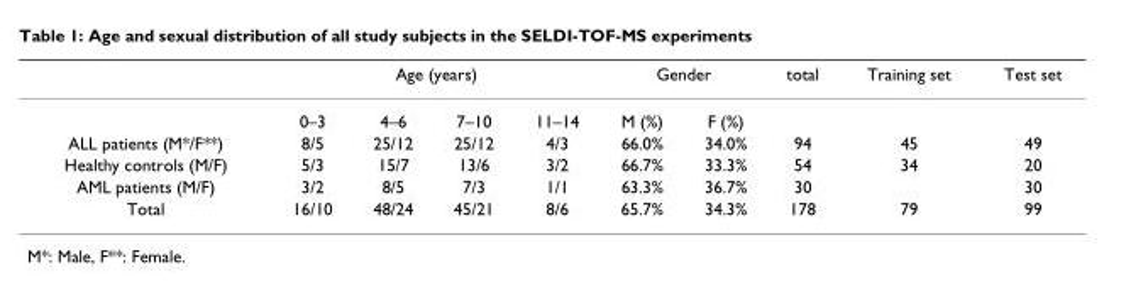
<table><thead><tr><td rowspan="2"></td><td colspan="4">Age (years)</td><td colspan="2">Gender</td><td rowspan="2">total</td><td rowspan="2">Training set</td><td rowspan="2">Test set</td></tr><tr><td>0–3</td><td>4–6</td><td>7–10</td><td>11–14</td><td>M (%)</td><td>F (%)</td></tr></thead><tbody><tr><td>ALL patients (M*/F**)</td><td>8/5</td><td>25/12</td><td>25/12</td><td>4/3</td><td>66.0%</td><td>34.0%</td><td>94</td><td>45</td><td>49</td></tr><tr><td>Healthy controls (M/F)</td><td>5/3</td><td>15/7</td><td>13/6</td><td>3/2</td><td>66.7%</td><td>33.3%</td><td>54</td><td>34</td><td>20</td></tr><tr><td>AML patients (M/F)</td><td>3/2</td><td>8/5</td><td>7/3</td><td>1/1</td><td>63.3%</td><td>36.7%</td><td>30</td><td></td><td>30</td></tr><tr><td>Total</td><td>16/10</td><td>48/24</td><td>45/21</td><td>8/6</td><td>65.7%</td><td>34.3%</td><td>178</td><td>79</td><td>99</td></tr></tbody></table>